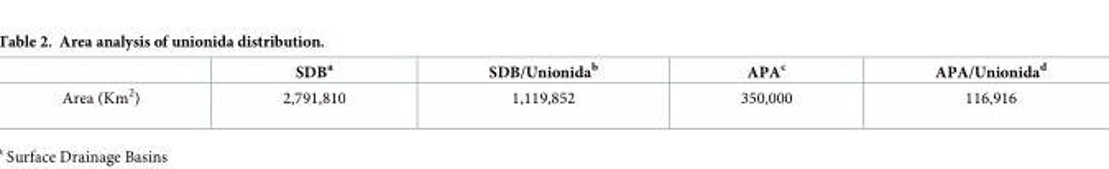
<table><thead><tr><td></td><td>SDB<sup>a</sup></td><td>SDB/Unionida<sup>b</sup></td><td>APA<sup>c</sup></td><td>APA/Unionida<sup>d</sup></td></tr></thead><tbody><tr><td>Area (Km<sup>2</sup>)</td><td>2,791,810</td><td>1,119,852</td><td>350,000</td><td>116,916</td></tr></tbody></table>